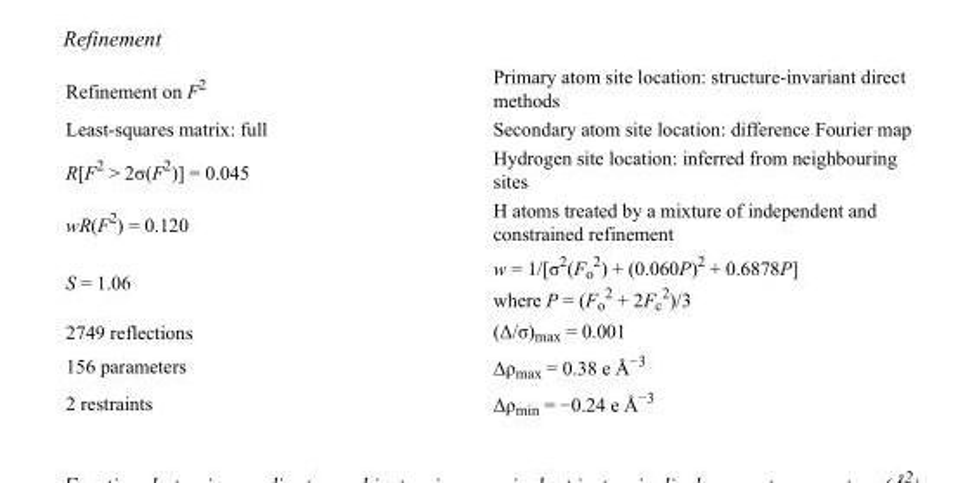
<table><tbody><tr><td>Refinement on F<sup>2</sup></td><td>Primary atom site location: structure-invariant direct methods</td></tr><tr><td>Least-squares matrix: full</td><td>Secondary atom site location: difference Fourier map</td></tr><tr><td>R[F<sup>2</sup> &gt; 2σ(F<sup>2</sup>)] = 0.045</td><td>Hydrogen site location: inferred from neighbouring sites</td></tr><tr><td>wR(F<sup>2</sup>) = 0.120</td><td>H atoms treated by a mixture of independent and constrained refinement</td></tr><tr><td>S = 1.06</td><td>w = 1/[σ<sup>2</sup>(F<sub>o</sub> <sup>2</sup>) + (0.060P)<sup>2</sup> + 0.6878P] where P = (F<sub>o</sub> <sup>2</sup> + 2F<sub>c</sub> <sup>2</sup>)/3</td></tr><tr><td>2749 reflections</td><td>(Δ/σ)<sub>max</sub> = 0.001</td></tr><tr><td>156 parameters</td><td>Δρ<sub>max</sub> = 0.38 e Å<sup>−3</sup></td></tr><tr><td>2 restraints</td><td>Δρ<sub>min</sub> = −0.24 e Å<sup>−3</sup></td></tr></tbody></table>